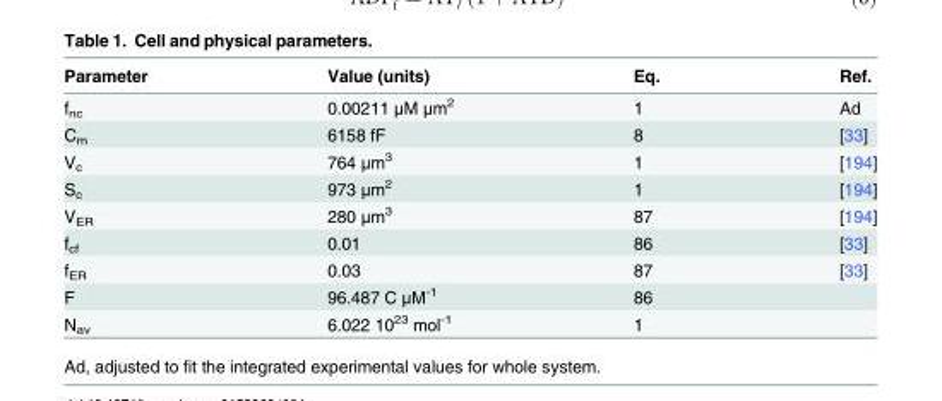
<table><thead><tr><td>Parameter</td><td>Value (units)</td><td>Eq.</td><td>Ref.</td></tr></thead><tbody><tr><td>f<sub>nc</sub></td><td>0.00211 μM μm<sup>2</sup></td><td>1</td><td>Ad</td></tr><tr><td>C<sub>m</sub></td><td>6158 fF</td><td>8</td><td>[33]</td></tr><tr><td>V<sub>c</sub></td><td>764 μm<sup>3</sup></td><td>1</td><td>[194]</td></tr><tr><td>S<sub>c</sub></td><td>973 μm<sup>2</sup></td><td>1</td><td>[194]</td></tr><tr><td>V<sub>ER</sub></td><td>280 μm<sup>3</sup></td><td>87</td><td>[194]</td></tr><tr><td>f<sub>cf</sub></td><td>0.01</td><td>86</td><td>[33]</td></tr><tr><td>f<sub>ER</sub></td><td>0.03</td><td>87</td><td>[33]</td></tr><tr><td>F</td><td>96.487 C μM<sup>-1</sup></td><td>86</td><td></td></tr><tr><td>N<sub>av</sub></td><td>6.022 10<sup>23</sup> mol<sup>-1</sup></td><td>1</td><td></td></tr></tbody></table>